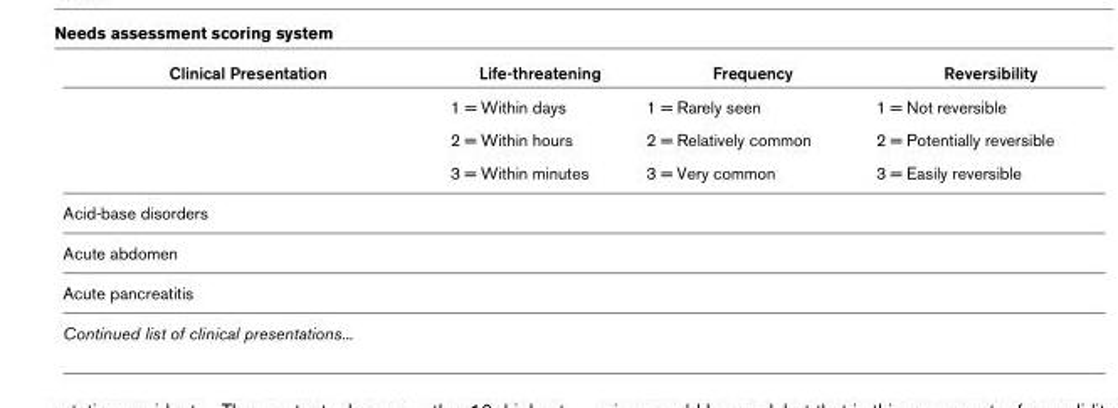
<table><thead><tr><td>Clinical Presentation</td><td>Life-threatening</td><td>Frequency</td><td>Reversibility</td></tr></thead><tbody><tr><td></td><td>1 = Within days</td><td>1 = Rarely seen</td><td>1 = Not reversible</td></tr><tr><td></td><td>2 = Within hours</td><td>2 = Relatively common</td><td>2 = Potentially reversible</td></tr><tr><td></td><td>3 = Within minutes</td><td>3 = Very common</td><td>3 = Easily reversible</td></tr><tr><td colspan="4">Acid-base disorders</td></tr><tr><td colspan="4">Acute abdomen</td></tr><tr><td colspan="4">Acute pancreatitis</td></tr><tr><td>Continued list of clinical presentations...</td><td></td><td></td><td></td></tr></tbody></table>